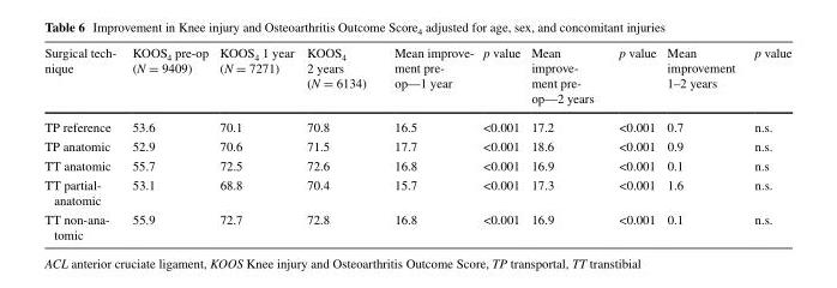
<table><thead><tr><td>Surgical tech- nique</td><td>KOOS<sub>4</sub> pre-op (N = 9409)</td><td>KOOS<sub>4</sub> 1 year (N = 7271)</td><td>KOOS<sub>4</sub> 2 years (N = 6134)</td><td>Mean improve- ment pre- op—1 year</td><td>p value</td><td>Mean improve- ment pre- op—2 years</td><td>p value</td><td>Mean improvement 1–2 years</td><td>p value</td></tr></thead><tbody><tr><td>TP reference</td><td>53.6</td><td>70.1</td><td>70.8</td><td>16.5</td><td>&lt;0.001</td><td>17.2</td><td>&lt;0.001</td><td>0.7</td><td>n.s.</td></tr><tr><td>TP anatomic</td><td>52.9</td><td>70.6</td><td>71.5</td><td>17.7</td><td>&lt;0.001</td><td>18.6</td><td>&lt;0.001</td><td>0.9</td><td>n.s.</td></tr><tr><td>TT anatomic</td><td>55.7</td><td>72.5</td><td>72.6</td><td>16.8</td><td>&lt;0.001</td><td>16.9</td><td>&lt;0.001</td><td>0.1</td><td>n.s</td></tr><tr><td>TT partial- anatomic</td><td>53.1</td><td>68.8</td><td>70.4</td><td>15.7</td><td>&lt;0.001</td><td>17.3</td><td>&lt;0.001</td><td>1.6</td><td>n.s.</td></tr><tr><td>TT non-ana- tomic</td><td>55.9</td><td>72.7</td><td>72.8</td><td>16.8</td><td>&lt;0.001</td><td>16.9</td><td>&lt;0.001</td><td>0.1</td><td>n.s.</td></tr></tbody></table>